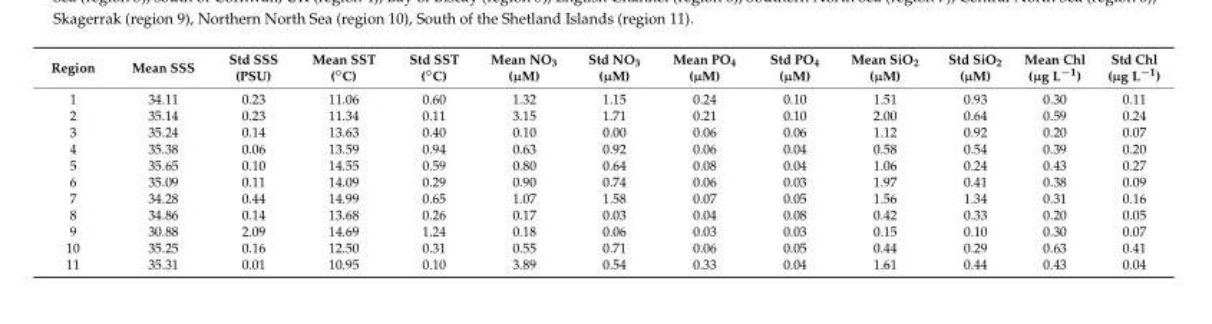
<table><thead><tr><td>Region</td><td>Mean SSS</td><td>Std SSS (PSU)</td><td>Mean SST (◦C)</td><td>Std SST (◦C)</td><td>Mean NO<sub>3</sub> (µM)</td><td>Std NO<sub>3</sub> (µM)</td><td>Mean PO<sub>4</sub> (µM)</td><td>Std PO<sub>4</sub> (µM)</td><td>Mean SiO<sub>2</sub> (µM)</td><td>Std SiO<sub>2</sub> (µM)</td><td>Mean Chl (µg L<sup>−1</sup>)</td><td>Std Chl (µg L<sup>−1</sup>)</td></tr></thead><tbody><tr><td>1</td><td>34.11</td><td>0.23</td><td>11.06</td><td>0.60</td><td>1.32</td><td>1.15</td><td>0.24</td><td>0.10</td><td>1.51</td><td>0.93</td><td>0.30</td><td>0.11</td></tr><tr><td>2</td><td>35.14</td><td>0.23</td><td>11.34</td><td>0.11</td><td>3.15</td><td>1.71</td><td>0.21</td><td>0.10</td><td>2.00</td><td>0.64</td><td>0.59</td><td>0.24</td></tr><tr><td>3</td><td>35.24</td><td>0.14</td><td>13.63</td><td>0.40</td><td>0.10</td><td>0.00</td><td>0.06</td><td>0.06</td><td>1.12</td><td>0.92</td><td>0.20</td><td>0.07</td></tr><tr><td>4</td><td>35.38</td><td>0.06</td><td>13.59</td><td>0.94</td><td>0.63</td><td>0.92</td><td>0.06</td><td>0.04</td><td>0.58</td><td>0.54</td><td>0.39</td><td>0.20</td></tr><tr><td>5</td><td>35.65</td><td>0.10</td><td>14.55</td><td>0.59</td><td>0.80</td><td>0.64</td><td>0.08</td><td>0.04</td><td>1.06</td><td>0.24</td><td>0.43</td><td>0.27</td></tr><tr><td>6</td><td>35.09</td><td>0.11</td><td>14.09</td><td>0.29</td><td>0.90</td><td>0.74</td><td>0.06</td><td>0.03</td><td>1.97</td><td>0.41</td><td>0.38</td><td>0.09</td></tr><tr><td>7</td><td>34.28</td><td>0.44</td><td>14.99</td><td>0.65</td><td>1.07</td><td>1.58</td><td>0.07</td><td>0.05</td><td>1.56</td><td>1.34</td><td>0.31</td><td>0.16</td></tr><tr><td>8</td><td>34.86</td><td>0.14</td><td>13.68</td><td>0.26</td><td>0.17</td><td>0.03</td><td>0.04</td><td>0.08</td><td>0.42</td><td>0.33</td><td>0.20</td><td>0.05</td></tr><tr><td>9</td><td>30.88</td><td>2.09</td><td>14.69</td><td>1.24</td><td>0.18</td><td>0.06</td><td>0.03</td><td>0.03</td><td>0.15</td><td>0.10</td><td>0.30</td><td>0.07</td></tr><tr><td>10</td><td>35.25</td><td>0.16</td><td>12.50</td><td>0.31</td><td>0.55</td><td>0.71</td><td>0.06</td><td>0.05</td><td>0.44</td><td>0.29</td><td>0.63</td><td>0.41</td></tr><tr><td>11</td><td>35.31</td><td>0.01</td><td>10.95</td><td>0.10</td><td>3.89</td><td>0.54</td><td>0.33</td><td>0.04</td><td>1.61</td><td>0.44</td><td>0.43</td><td>0.04</td></tr></tbody></table>